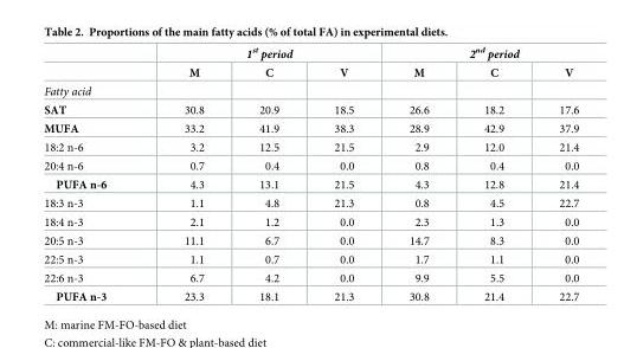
<table><thead><tr><td rowspan="2"></td><td colspan="3">1<sup>st</sup> period</td><td colspan="3">2<sup>nd</sup> period</td></tr><tr><td>M</td><td>C</td><td>V</td><td>M</td><td>C</td><td>V</td></tr></thead><tbody><tr><td colspan="7">Fatty acid</td></tr><tr><td>SAT</td><td>30.8</td><td>20.9</td><td>18.5</td><td>26.6</td><td>18.2</td><td>17.6</td></tr><tr><td>MUFA</td><td>33.2</td><td>41.9</td><td>38.3</td><td>28.9</td><td>42.9</td><td>37.9</td></tr><tr><td>18:2 n-6</td><td>3.2</td><td>12.5</td><td>21.5</td><td>2.9</td><td>12.0</td><td>21.4</td></tr><tr><td>20:4 n-6</td><td>0.7</td><td>0.4</td><td>0.0</td><td>0.8</td><td>0.4</td><td>0.0</td></tr><tr><td>PUFA n-6</td><td>4.3</td><td>13.1</td><td>21.5</td><td>4.3</td><td>12.8</td><td>21.4</td></tr><tr><td>18:3 n-3</td><td>1.1</td><td>4.8</td><td>21.3</td><td>0.8</td><td>4.5</td><td>22.7</td></tr><tr><td>18:4 n-3</td><td>2.1</td><td>1.2</td><td>0.0</td><td>2.3</td><td>1.3</td><td>0.0</td></tr><tr><td>20:5 n-3</td><td>11.1</td><td>6.7</td><td>0.0</td><td>14.7</td><td>8.3</td><td>0.0</td></tr><tr><td>22:5 n-3</td><td>1.1</td><td>0.7</td><td>0.0</td><td>1.7</td><td>1.1</td><td>0.0</td></tr><tr><td>22:6 n-3</td><td>6.7</td><td>4.2</td><td>0.0</td><td>9.9</td><td>5.5</td><td>0.0</td></tr><tr><td>PUFA n-3</td><td>23.3</td><td>18.1</td><td>21.3</td><td>30.8</td><td>21.4</td><td>22.7</td></tr></tbody></table>